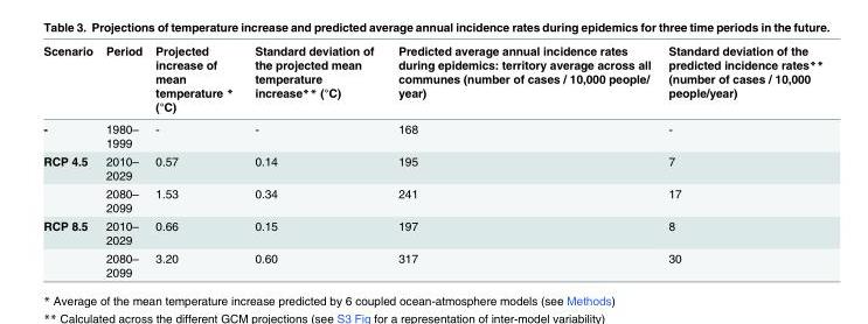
<table><thead><tr><td>Scenario</td><td>Period</td><td>Projected increase of mean temperature * (°C)</td><td>Standard deviation of the projected mean temperature increase** (°C)</td><td>Predicted average annual incidence rates during epidemics: territory average across all communes (number of cases / 10,000 people/ year)</td><td>Standard deviation of the predicted incidence rates** (number of cases / 10,000 people/year)</td></tr></thead><tbody><tr><td>-</td><td>1980– 1999</td><td>-</td><td>-</td><td>168</td><td>-</td></tr><tr><td rowspan="2">RCP 4.5</td><td>2010– 2029</td><td>0.57</td><td>0.14</td><td>195</td><td>7</td></tr><tr><td>2080– 2099</td><td>1.53</td><td>0.34</td><td>241</td><td>17</td></tr><tr><td rowspan="2">RCP 8.5</td><td>2010– 2029</td><td>0.66</td><td>0.15</td><td>197</td><td>8</td></tr><tr><td>2080– 2099</td><td>3.20</td><td>0.60</td><td>317</td><td>30</td></tr></tbody></table>